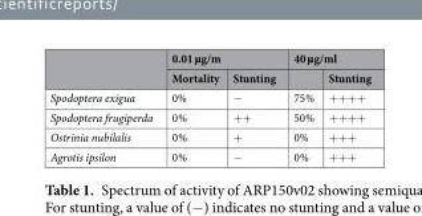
<table><thead><tr><td rowspan="2"></td><td colspan="2">0.01 µg/m</td><td colspan="2">40 µg/ml</td></tr><tr><td>Mortality</td><td>Stunting</td><td></td><td>Stunting</td></tr></thead><tbody><tr><td>Spodoptera exigua</td><td>0%</td><td>−</td><td>75%</td><td>++++</td></tr><tr><td>Spodoptera frugiperda</td><td>0%</td><td>++</td><td>50%</td><td>++++</td></tr><tr><td>Ostrinia nubilalis</td><td>0%</td><td>+</td><td>0%</td><td>+++</td></tr><tr><td>Agrotis ipsilon</td><td>0%</td><td>−</td><td>0%</td><td>+++</td></tr></tbody></table>